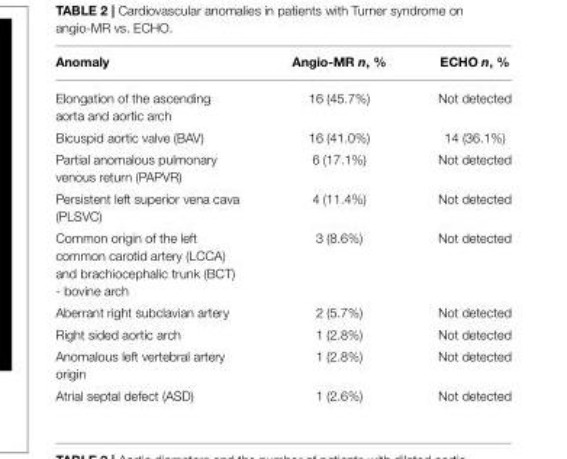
<table><thead><tr><td>Anomaly</td><td>Angio-MR n, %</td><td>ECHO n, %</td></tr></thead><tbody><tr><td>Elongation of the ascending aorta and aortic arch</td><td>16 (45.7%)</td><td>Not detected</td></tr><tr><td>Bicuspid aortic valve (BAV)</td><td>16 (41.0%)</td><td>14 (36.1%)</td></tr><tr><td>Partial anomalous pulmonary venous return (PAPVR)</td><td>6 (17.1%)</td><td>Not detected</td></tr><tr><td>Persistent left superior vena cava (PLSVC)</td><td>4 (11.4%)</td><td>Not detected</td></tr><tr><td>Common origin of the left common carotid artery (LCCA) and brachiocephalic trunk (BCT) - bovine arch</td><td>3 (8.6%)</td><td>Not detected</td></tr><tr><td>Aberrant right subclavian artery</td><td>2 (5.7%)</td><td>Not detected</td></tr><tr><td>Right sided aortic arch</td><td>1 (2.8%)</td><td>Not detected</td></tr><tr><td>Anomalous left vertebral artery origin</td><td>1 (2.8%)</td><td>Not detected</td></tr><tr><td>Atrial septal defect (ASD)</td><td>1 (2.6%)</td><td>Not detected</td></tr></tbody></table>